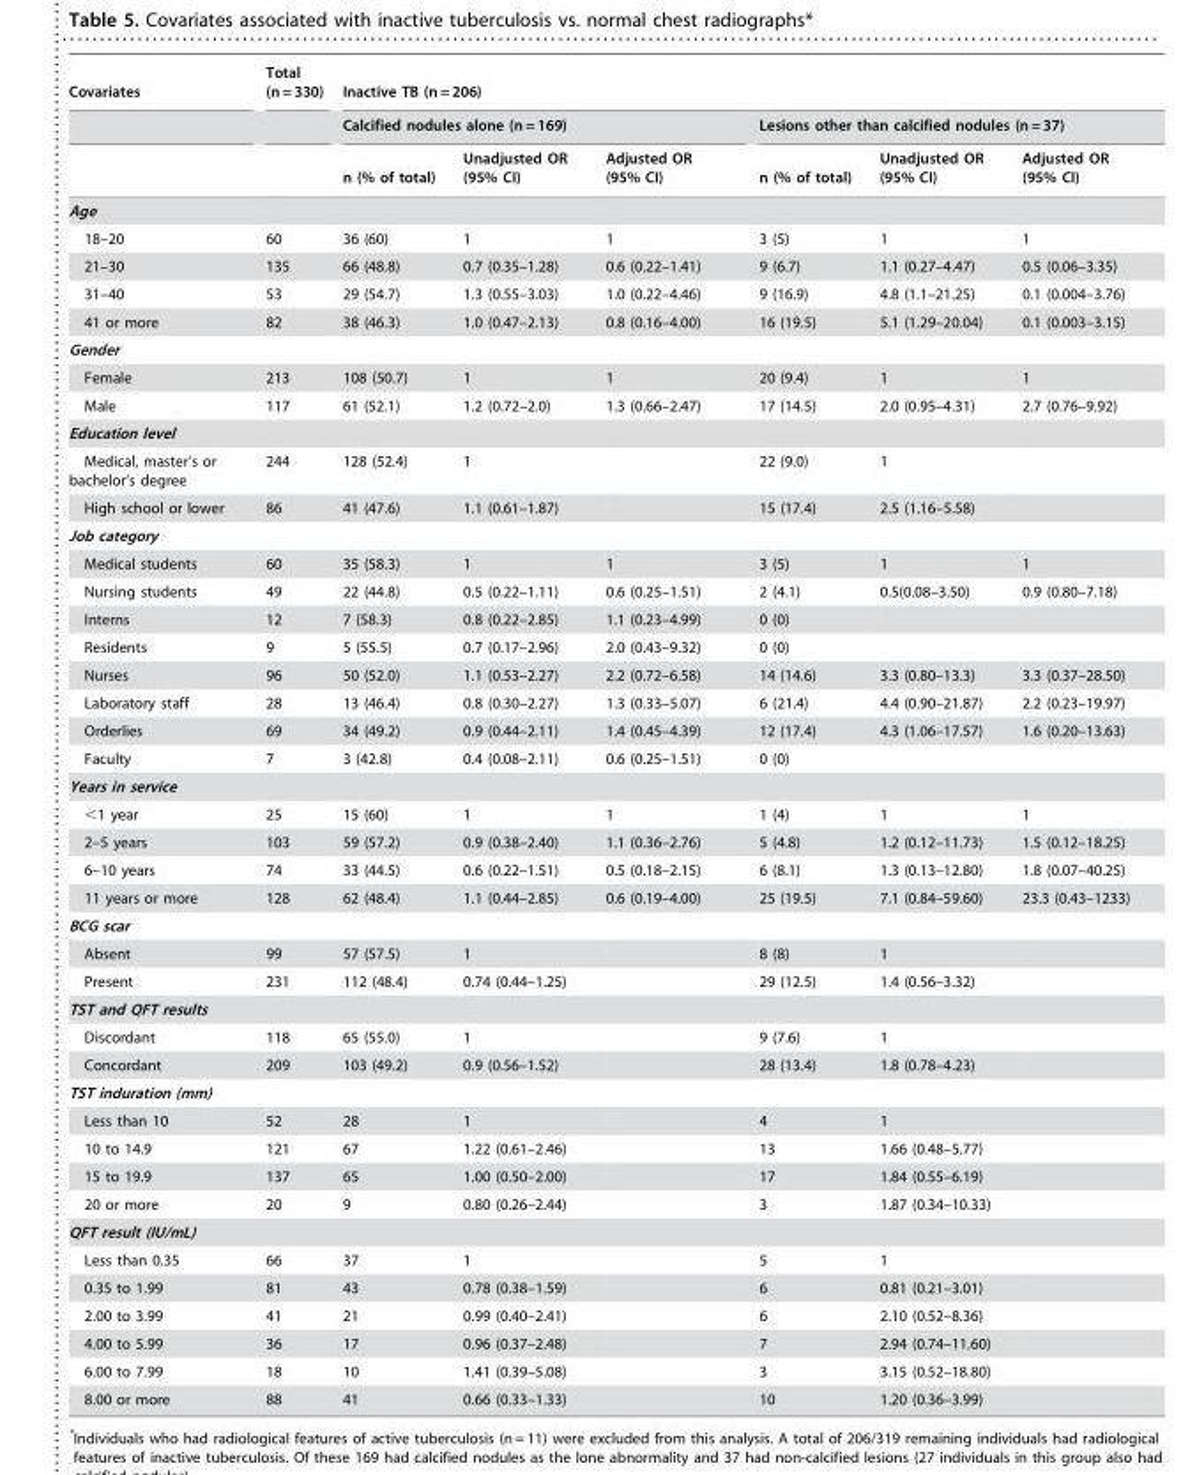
<table><thead><tr><td rowspan="3">Covariates</td><td rowspan="3">Total (n = 330)</td><td colspan="6">Inactive TB (n = 206)</td></tr><tr><td colspan="3">Calcified nodules alone (n = 169)</td><td colspan="3">Lesions other than calcified nodules (n = 37)</td></tr><tr><td>n (% of total)</td><td>Unadjusted OR (95% CI)</td><td>Adjusted OR (95% CI)</td><td>n (% of total)</td><td>Unadjusted OR (95% CI)</td><td>Adjusted OR (95% CI)</td></tr></thead><tbody><tr><td colspan="8">Age</td></tr><tr><td>18–20</td><td>60</td><td>36 (60)</td><td>1</td><td>1</td><td>3 (5)</td><td>1</td><td>1</td></tr><tr><td>21–30</td><td>135</td><td>66 (48.8)</td><td>0.7 (0.35–1.28)</td><td>0.6 (0.22–1.41)</td><td>9 (6.7)</td><td>1.1 (0.27–4.47)</td><td>0.5 (0.06–3.35)</td></tr><tr><td>31–40</td><td>53</td><td>29 (54.7)</td><td>1.3 (0.55–3.03)</td><td>1.0 (0.22–4.46)</td><td>9 (16.9)</td><td>4.8 (1.1–21.25)</td><td>0.1 (0.004–3.76)</td></tr><tr><td>41 or more</td><td>82</td><td>38 (46.3)</td><td>1.0 (0.47–2.13)</td><td>0.8 (0.16–4.00)</td><td>16 (19.5)</td><td>5.1 (1.29–20.04)</td><td>0.1 (0.003–3.15)</td></tr><tr><td colspan="8">Gender</td></tr><tr><td>Female</td><td>213</td><td>108 (50.7)</td><td>1</td><td>1</td><td>20 (9.4)</td><td>1</td><td>1</td></tr><tr><td>Male</td><td>117</td><td>61 (52.1)</td><td>1.2 (0.72–2.0)</td><td>1.3 (0.66–2.47)</td><td>17 (14.5)</td><td>2.0 (0.95–4.31)</td><td>2.7 (0.76–9.92)</td></tr><tr><td colspan="8">Education level</td></tr><tr><td>Medical, master’s or bachelor’s degree</td><td>244</td><td>128 (52.4)</td><td>1</td><td></td><td>22 (9.0)</td><td>1</td><td></td></tr><tr><td>High school or lower</td><td>86</td><td>41 (47.6)</td><td>1.1 (0.61–1.87)</td><td></td><td>15 (17.4)</td><td>2.5 (1.16–5.58)</td><td></td></tr><tr><td colspan="8">Job category</td></tr><tr><td>Medical students</td><td>60</td><td>35 (58.3)</td><td>1</td><td>1</td><td>3 (5)</td><td>1</td><td>1</td></tr><tr><td>Nursing students</td><td>49</td><td>22 (44.8)</td><td>0.5 (0.22–1.11)</td><td>0.6 (0.25–1.51)</td><td>2 (4.1)</td><td>0.5(0.08–3.50)</td><td>0.9 (0.80–7.18)</td></tr><tr><td>Interns</td><td>12</td><td>7 (58.3)</td><td>0.8 (0.22–2.85)</td><td>1.1 (0.23–4.99)</td><td>0 (0)</td><td></td><td></td></tr><tr><td>Residents</td><td>9</td><td>5 (55.5)</td><td>0.7 (0.17–2.96)</td><td>2.0 (0.43–9.32)</td><td>0 (0)</td><td></td><td></td></tr><tr><td>Nurses</td><td>96</td><td>50 (52.0)</td><td>1.1 (0.53–2.27)</td><td>2.2 (0.72–6.58)</td><td>14 (14.6)</td><td>3.3 (0.80–13.3)</td><td>3.3 (0.37–28.50)</td></tr><tr><td>Laboratory staff</td><td>28</td><td>13 (46.4)</td><td>0.8 (0.30–2.27)</td><td>1.3 (0.33–5.07)</td><td>6 (21.4)</td><td>4.4 (0.90–21.87)</td><td>2.2 (0.23–19.97)</td></tr><tr><td>Orderlies</td><td>69</td><td>34 (49.2)</td><td>0.9 (0.44–2.11)</td><td>1.4 (0.45–4.39)</td><td>12 (17.4)</td><td>4.3 (1.06–17.57)</td><td>1.6 (0.20–13.63)</td></tr><tr><td>Faculty</td><td>7</td><td>3 (42.8)</td><td>0.4 (0.08–2.11)</td><td>0.6 (0.25–1.51)</td><td>0 (0)</td><td></td><td></td></tr><tr><td colspan="8">Years in service</td></tr><tr><td>&lt;1 year</td><td>25</td><td>15 (60)</td><td>1</td><td>1</td><td>1 (4)</td><td>1</td><td>1</td></tr><tr><td>2–5 years</td><td>103</td><td>59 (57.2)</td><td>0.9 (0.38–2.40)</td><td>1.1 (0.36–2.76)</td><td>5 (4.8)</td><td>1.2 (0.12–11.73)</td><td>1.5 (0.12–18.25)</td></tr><tr><td>6–10 years</td><td>74</td><td>33 (44.5)</td><td>0.6 (0.22–1.51)</td><td>0.5 (0.18–2.15)</td><td>6 (8.1)</td><td>1.3 (0.13–12.80)</td><td>1.8 (0.07–40.25)</td></tr><tr><td>11 years or more</td><td>128</td><td>62 (48.4)</td><td>1.1 (0.44–2.85)</td><td>0.6 (0.19–4.00)</td><td>25 (19.5)</td><td>7.1 (0.84–59.60)</td><td>23.3 (0.43–1233)</td></tr><tr><td colspan="8">BCG scar</td></tr><tr><td>Absent</td><td>99</td><td>57 (57.5)</td><td>1</td><td></td><td>8 (8)</td><td>1</td><td></td></tr><tr><td>Present</td><td>231</td><td>112 (48.4)</td><td>0.74 (0.44–1.25)</td><td></td><td>29 (12.5)</td><td>1.4 (0.56–3.32)</td><td></td></tr><tr><td colspan="8">TST and QFT results</td></tr><tr><td>Discordant</td><td>118</td><td>65 (55.0)</td><td>1</td><td></td><td>9 (7.6)</td><td>1</td><td></td></tr><tr><td>Concordant</td><td>209</td><td>103 (49.2)</td><td>0.9 (0.56–1.52)</td><td></td><td>28 (13.4)</td><td>1.8 (0.78–4.23)</td><td></td></tr><tr><td colspan="8">TST induration (mm)</td></tr><tr><td>Less than 10</td><td>52</td><td>28</td><td>1</td><td></td><td>4</td><td>1</td><td></td></tr><tr><td>10 to 14.9</td><td>121</td><td>67</td><td>1.22 (0.61–2.46)</td><td></td><td>13</td><td>1.66 (0.48–5.77)</td><td></td></tr><tr><td>15 to 19.9</td><td>137</td><td>65</td><td>1.00 (0.50–2.00)</td><td></td><td>17</td><td>1.84 (0.55–6.19)</td><td></td></tr><tr><td>20 or more</td><td>20</td><td>9</td><td>0.80 (0.26–2.44)</td><td></td><td>3</td><td>1.87 (0.34–10.33)</td><td></td></tr><tr><td colspan="8">QFT result (IU/mL)</td></tr><tr><td>Less than 0.35</td><td>66</td><td>37</td><td>1</td><td></td><td>5</td><td>1</td><td></td></tr><tr><td>0.35 to 1.99</td><td>81</td><td>43</td><td>0.78 (0.38–1.59)</td><td></td><td>6</td><td>0.81 (0.21–3.01)</td><td></td></tr><tr><td>2.00 to 3.99</td><td>41</td><td>21</td><td>0.99 (0.40–2.41)</td><td></td><td>6</td><td>2.10 (0.52–8.36)</td><td></td></tr><tr><td>4.00 to 5.99</td><td>36</td><td>17</td><td>0.96 (0.37–2.48)</td><td></td><td>7</td><td>2.94 (0.74–11.60)</td><td></td></tr><tr><td>6.00 to 7.99</td><td>18</td><td>10</td><td>1.41 (0.39–5.08)</td><td></td><td>3</td><td>3.15 (0.52–18.80)</td><td></td></tr><tr><td>8.00 or more</td><td>88</td><td>41</td><td>0.66 (0.33–1.33)</td><td></td><td>10</td><td>1.20 (0.36–3.99)</td><td></td></tr></tbody></table>